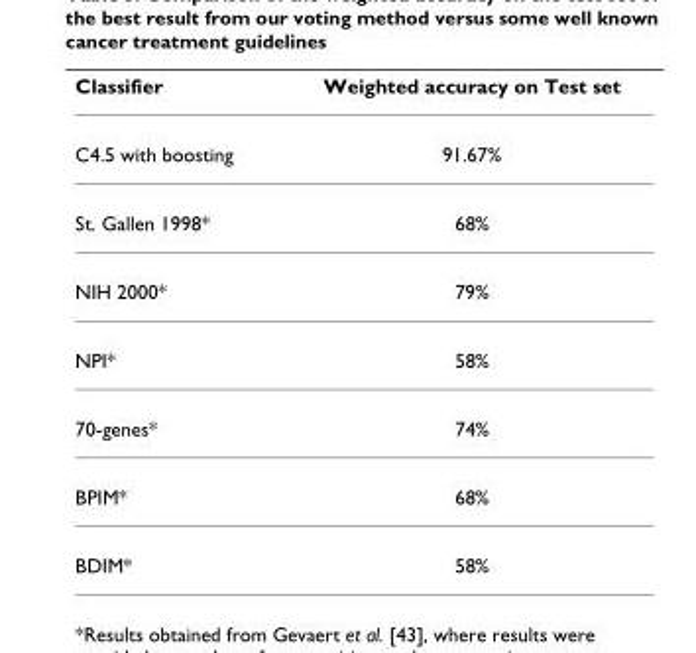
<table><thead><tr><td>Classifier</td><td>Weighted accuracy on Test set</td></tr></thead><tbody><tr><td>C4.5 with boosting</td><td>91.67%</td></tr><tr><td>St. Gallen 1998*</td><td>68%</td></tr><tr><td>NIH 2000*</td><td>79%</td></tr><tr><td>NPI*</td><td>58%</td></tr><tr><td>70-genes*</td><td>74%</td></tr><tr><td>BPIM*</td><td>68%</td></tr><tr><td>BDIM*</td><td>58%</td></tr></tbody></table>